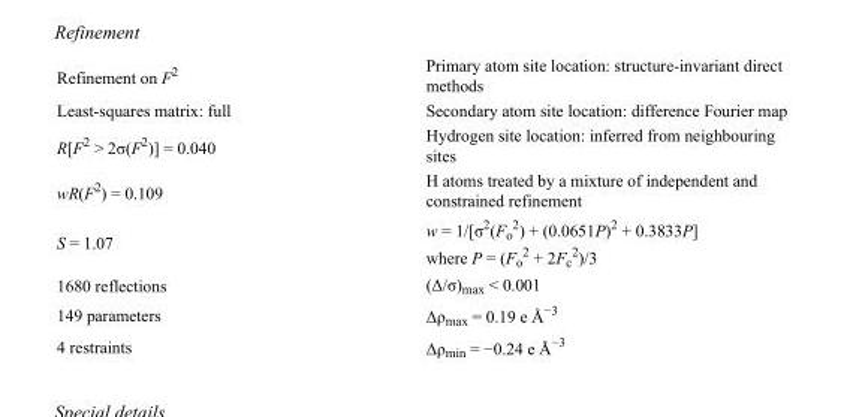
<table><tbody><tr><td>Refinement on F<sup>2</sup></td><td>Primary atom site location: structure-invariant direct methods</td></tr><tr><td>Least-squares matrix: full</td><td>Secondary atom site location: difference Fourier map</td></tr><tr><td>R[F<sup>2</sup> &gt; 2σ(F<sup>2</sup>)] = 0.040</td><td>Hydrogen site location: inferred from neighbouring sites</td></tr><tr><td>wR(F<sup>2</sup>) = 0.109</td><td>H atoms treated by a mixture of independent and constrained refinement</td></tr><tr><td>S = 1.07</td><td>w = 1/[σ<sup>2</sup>(F<sub>o</sub> <sup>2</sup>) + (0.0651P)<sup>2</sup> + 0.3833P] where P = (F<sub>o</sub> <sup>2</sup> + 2F<sub>c</sub> <sup>2</sup>)/3</td></tr><tr><td>1680 reflections</td><td>(Δ/σ)<sub>max</sub> &lt; 0.001</td></tr><tr><td>149 parameters</td><td>Δρ<sub>max</sub> = 0.19 e Å<sup>−3</sup></td></tr><tr><td>4 restraints</td><td>Δρ<sub>min</sub> = −0.24 e Å<sup>−3</sup></td></tr></tbody></table>